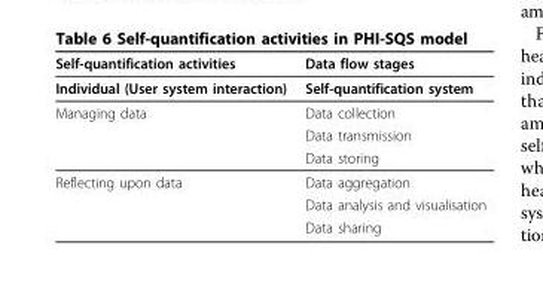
<table><thead><tr><td>Self-quantification activities</td><td>Data flow stages</td></tr></thead><tbody><tr><td>Individual (User system interaction)</td><td>Self-quantification system</td></tr><tr><td rowspan="3">Managing data</td><td>Data collection</td></tr><tr><td>Data transmission</td></tr><tr><td>Data storing</td></tr><tr><td rowspan="3">Reflecting upon data</td><td>Data aggregation</td></tr><tr><td>Data analysis and visualisation</td></tr><tr><td>Data sharing</td></tr></tbody></table>